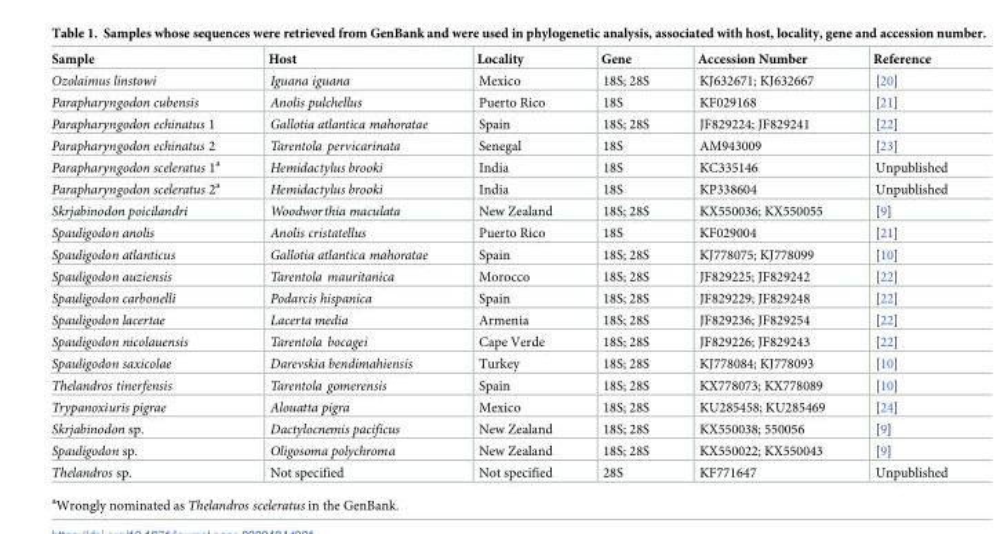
<table><thead><tr><td>Sample</td><td>Host</td><td>Locality</td><td>Gene</td><td>Accession Number</td><td>Reference</td></tr></thead><tbody><tr><td>Ozolaimus linstowi</td><td>Iguana iguana</td><td>Mexico</td><td>18S; 28S</td><td>KJ632671; KJ632667</td><td>[20]</td></tr><tr><td>Parapharyngodon cubensis</td><td>Anolis pulchellus</td><td>Puerto Rico</td><td>18S</td><td>KF029168</td><td>[21]</td></tr><tr><td>Parapharyngodon echinatus 1</td><td>Gallotia atlantica mahoratae</td><td>Spain</td><td>18S; 28S</td><td>JF829224; JF829241</td><td>[22]</td></tr><tr><td>Parapharyngodon echinatus 2</td><td>Tarentola pervicarinata</td><td>Senegal</td><td>18S</td><td>AM943009</td><td>[23]</td></tr><tr><td>Parapharyngodon sceleratus 1<sup>a</sup></td><td>Hemidactylus brooki</td><td>India</td><td>18S</td><td>KC335146</td><td>Unpublished</td></tr><tr><td>Parapharyngodon sceleratus 2<sup>a</sup></td><td>Hemidactylus brooki</td><td>India</td><td>18S</td><td>KP338604</td><td>Unpublished</td></tr><tr><td>Skrjabinodon poicilandri</td><td>Woodworthia maculata</td><td>New Zealand</td><td>18S; 28S</td><td>KX550036; KX550055</td><td>[9]</td></tr><tr><td>Spauligodon anolis</td><td>Anolis cristatellus</td><td>Puerto Rico</td><td>18S</td><td>KF029004</td><td>[21]</td></tr><tr><td>Spauligodon atlanticus</td><td>Gallotia atlantica mahoratae</td><td>Spain</td><td>18S; 28S</td><td>KJ778075; KJ778099</td><td>[10]</td></tr><tr><td>Spauligodon auziensis</td><td>Tarentola mauritanica</td><td>Morocco</td><td>18S; 28S</td><td>JF829225; JF829242</td><td>[22]</td></tr><tr><td>Spauligodon carbonelli</td><td>Podarcis hispanica</td><td>Spain</td><td>18S; 28S</td><td>JF829229; JF829248</td><td>[22]</td></tr><tr><td>Spauligodon lacertae</td><td>Lacerta media</td><td>Armenia</td><td>18S; 28S</td><td>JF829236; JF829254</td><td>[22]</td></tr><tr><td>Spauligodon nicolauensis</td><td>Tarentola bocagei</td><td>Cape Verde</td><td>18S; 28S</td><td>JF829226; JF829243</td><td>[22]</td></tr><tr><td>Spauligodon saxicolae</td><td>Darevskia bendimahiensis</td><td>Turkey</td><td>18S; 28S</td><td>KJ778084; KJ778093</td><td>[10]</td></tr><tr><td>Thelandros tinerfensis</td><td>Tarentola gomerensis</td><td>Spain</td><td>18S; 28S</td><td>KX778073; KX778089</td><td>[10]</td></tr><tr><td>Trypanoxiuris pigrae</td><td>Alouatta pigra</td><td>Mexico</td><td>18S; 28S</td><td>KU285458; KU285469</td><td>[24]</td></tr><tr><td>Skrjabinodon sp.</td><td>Dactylocnemis pacificus</td><td>New Zealand</td><td>18S; 28S</td><td>KX550038; 550056</td><td>[9]</td></tr><tr><td>Spauligodon sp.</td><td>Oligosoma polychroma</td><td>New Zealand</td><td>18S; 28S</td><td>KX550022; KX550043</td><td>[9]</td></tr><tr><td>Thelandros sp.</td><td>Not specified</td><td>Not specified</td><td>28S</td><td>KF771647</td><td>Unpublished</td></tr></tbody></table>